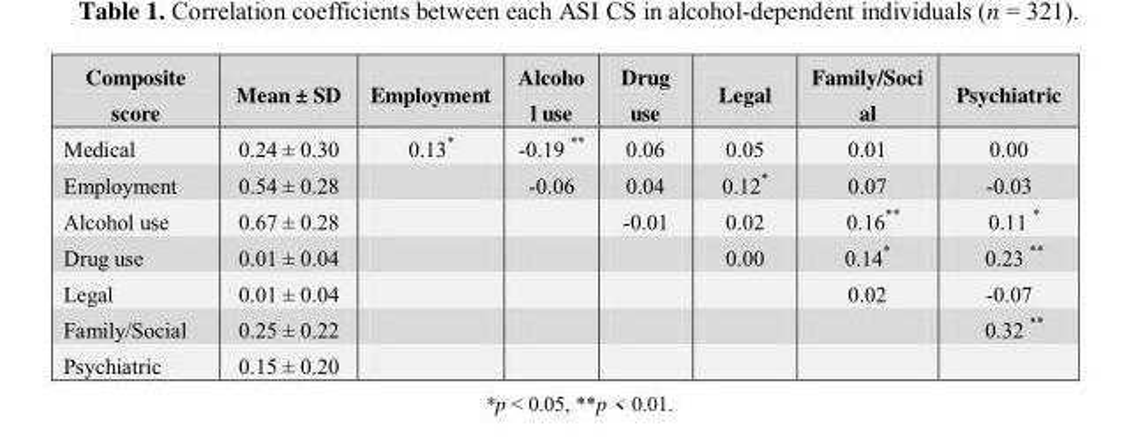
<table><thead><tr><td>Composite score</td><td>Mean ± SD</td><td>Employment</td><td>Alcoho l use</td><td>Drug use</td><td>Legal</td><td>Family/Soci al</td><td>Psychiatric</td></tr></thead><tbody><tr><td>Medical</td><td>0.24 ± 0.30</td><td>0.13*</td><td>-0.19 **</td><td>0.06</td><td>0.05</td><td>0.01</td><td>0.00</td></tr><tr><td>Employment</td><td>0.54 ± 0.28</td><td></td><td>-0.06</td><td>0.04</td><td>0.12*</td><td>0.07</td><td>-0.03</td></tr><tr><td>Alcohol use</td><td>0.67 ± 0.28</td><td></td><td></td><td>-0.01</td><td>0.02</td><td>0.16**</td><td>0.11 *</td></tr><tr><td>Drug use</td><td>0.01 ± 0.04</td><td></td><td></td><td></td><td>0.00</td><td>0.14*</td><td>0.23 **</td></tr><tr><td>Legal</td><td>0.01 ± 0.04</td><td></td><td></td><td></td><td></td><td>0.02</td><td>-0.07</td></tr><tr><td>Family/Social</td><td>0.25 ± 0.22</td><td></td><td></td><td></td><td></td><td></td><td>0.32 **</td></tr><tr><td>Psychiatric</td><td>0.15 ± 0.20</td><td></td><td></td><td></td><td></td><td></td><td></td></tr></tbody></table>